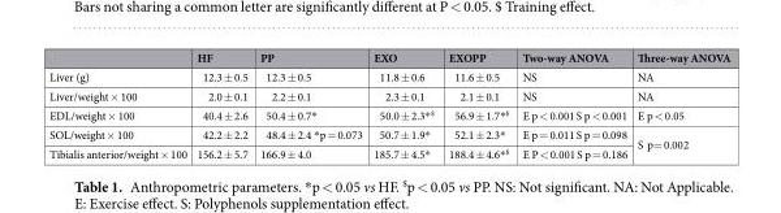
<table><thead><tr><td></td><td>HF</td><td>PP</td><td>EXO</td><td>EXOPP</td><td>Two-way ANOVA</td><td>Three-way ANOVA</td></tr></thead><tbody><tr><td>Liver (g)</td><td>12.3 ± 0.5</td><td>12.3 ± 0.5</td><td>11.8 ± 0.6</td><td>11.6 ± 0.5</td><td>NS</td><td>NA</td></tr><tr><td>Liver/weight × 100</td><td>2.0 ± 0.1</td><td>2.2 ± 0.1</td><td>2.3 ± 0.1</td><td>2.1 ± 0.1</td><td>NS</td><td>NA</td></tr><tr><td>EDL/weight × 100</td><td>40.4 ± 2.6</td><td>50.4 ± 0.7*</td><td>50.0 ± 2.3*<sup>$</sup></td><td>56.9 ± 1.7*<sup>$</sup></td><td>E p &lt; 0.001 S p &lt; 0.001</td><td>E p &lt; 0.05</td></tr><tr><td>SOL/weight × 100</td><td>42.2 ± 2.2</td><td>48.4 ± 2.4 *p = 0.073</td><td>50.7 ± 1.9*</td><td>52.1 ± 2.3*</td><td>E p = 0.011 S p = 0.098</td><td rowspan="2">S p= 0.002</td></tr><tr><td>Tibialis anterior/weight × 100</td><td>156.2 ± 5.7</td><td>166.9 ± 4.0</td><td>185.7 ± 4.5*</td><td>188.4 ± 4.6*<sup>$</sup></td><td>E P &lt; 0.001 S p = 0.186</td></tr></tbody></table>